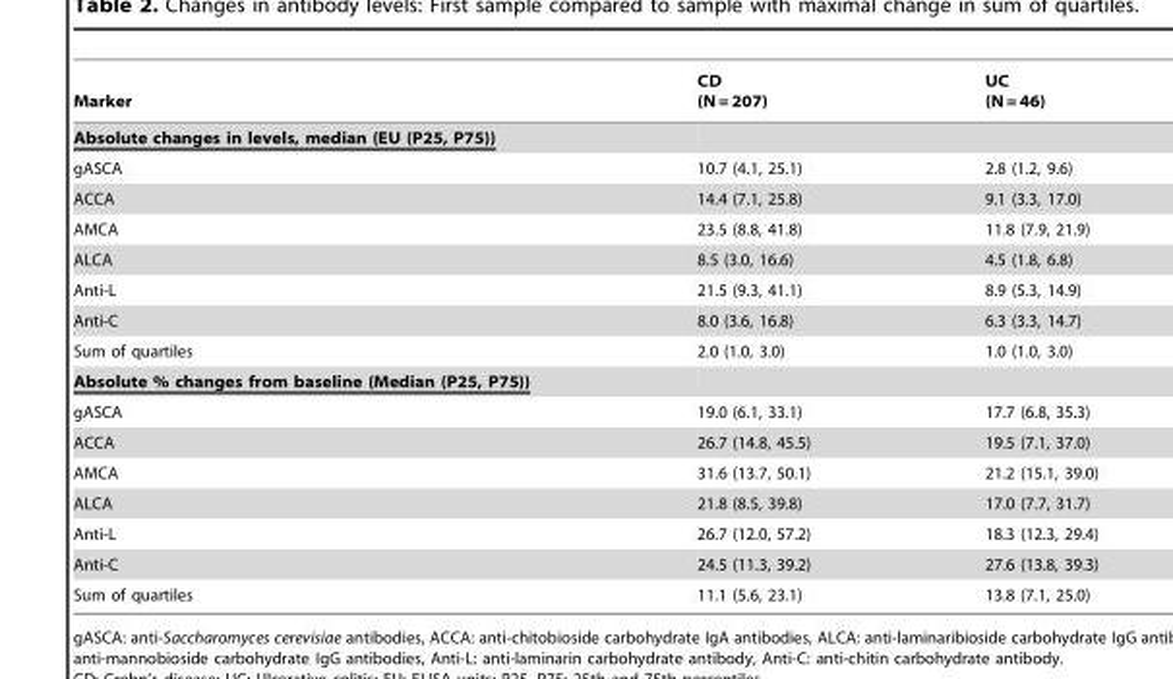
<table><thead><tr><td>Marker</td><td>CD (N = 207)</td><td>UC (N = 46)</td></tr></thead><tbody><tr><td colspan="3">Absolute changes in levels, median (EU (P25, P75))</td></tr><tr><td>gASCA</td><td>10.7 (4.1, 25.1)</td><td>2.8 (1.2, 9.6)</td></tr><tr><td>ACCA</td><td>14.4 (7.1, 25.8)</td><td>9.1 (3.3, 17.0)</td></tr><tr><td>AMCA</td><td>23.5 (8.8, 41.8)</td><td>11.8 (7.9, 21.9)</td></tr><tr><td>ALCA</td><td>8.5 (3.0, 16.6)</td><td>4.5 (1.8, 6.8)</td></tr><tr><td>Anti-L</td><td>21.5 (9.3, 41.1)</td><td>8.9 (5.3, 14.9)</td></tr><tr><td>Anti-C</td><td>8.0 (3.6, 16.8)</td><td>6.3 (3.3, 14.7)</td></tr><tr><td>Sum of quartiles</td><td>2.0 (1.0, 3.0)</td><td>1.0 (1.0, 3.0)</td></tr><tr><td colspan="3">Absolute % changes from baseline (Median (P25, P75))</td></tr><tr><td>gASCA</td><td>19.0 (6.1, 33.1)</td><td>17.7 (6.8, 35.3)</td></tr><tr><td>ACCA</td><td>26.7 (14.8, 45.5)</td><td>19.5 (7.1, 37.0)</td></tr><tr><td>AMCA</td><td>31.6 (13.7, 50.1)</td><td>21.2 (15.1, 39.0)</td></tr><tr><td>ALCA</td><td>21.8 (8.5, 39.8)</td><td>17.0 (7.7, 31.7)</td></tr><tr><td>Anti-L</td><td>26.7 (12.0, 57.2)</td><td>18.3 (12.3, 29.4)</td></tr><tr><td>Anti-C</td><td>24.5 (11.3, 39.2)</td><td>27.6 (13.8, 39.3)</td></tr><tr><td>Sum of quartiles</td><td>11.1 (5.6, 23.1)</td><td>13.8 (7.1, 25.0)</td></tr></tbody></table>